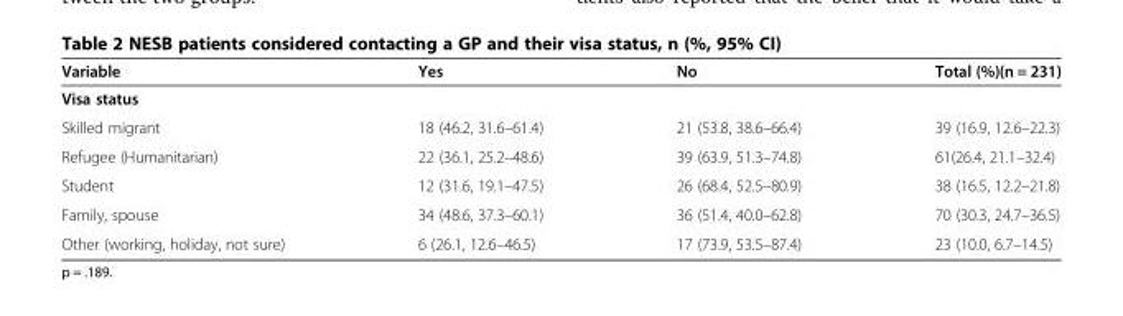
<table><thead><tr><td>Variable</td><td>Yes</td><td>No</td><td>Total (%)(n = 231)</td></tr></thead><tbody><tr><td colspan="4">Visa status</td></tr><tr><td>Skilled migrant</td><td>18 (46.2, 31.6–61.4)</td><td>21 (53.8, 38.6–66.4)</td><td>39 (16.9, 12.6–22.3)</td></tr><tr><td>Refugee (Humanitarian)</td><td>22 (36.1, 25.2–48.6)</td><td>39 (63.9, 51.3–74.8)</td><td>61(26.4, 21.1–32.4)</td></tr><tr><td>Student</td><td>12 (31.6, 19.1–47.5)</td><td>26 (68.4, 52.5–80.9)</td><td>38 (16.5, 12.2–21.8)</td></tr><tr><td>Family, spouse</td><td>34 (48.6, 37.3–60.1)</td><td>36 (51.4, 40.0–62.8)</td><td>70 (30.3, 24.7–36.5)</td></tr><tr><td>Other (working, holiday, not sure)</td><td>6 (26.1, 12.6–46.5)</td><td>17 (73.9, 53.5–87.4)</td><td>23 (10.0, 6.7–14.5)</td></tr></tbody></table>